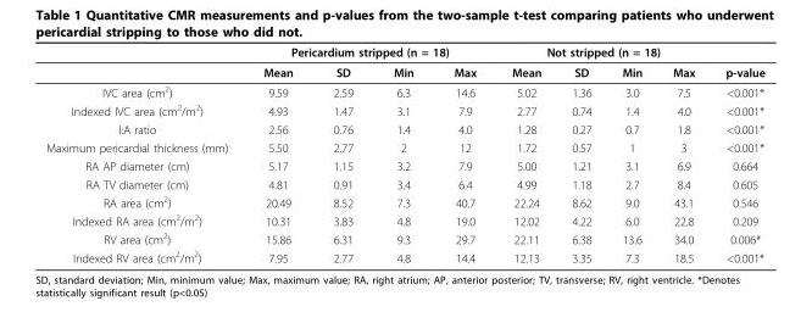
<table><thead><tr><td rowspan="2"></td><td colspan="4">Pericardium stripped (n = 18)</td><td colspan="4">Not stripped (n = 18)</td><td rowspan="2">p-value</td></tr><tr><td>Mean</td><td>SD</td><td>Min</td><td>Max</td><td>Mean</td><td>SD</td><td>Min</td><td>Max</td></tr></thead><tbody><tr><td>IVC area (cm<sup>2</sup>)</td><td>9.59</td><td>2.59</td><td>6.3</td><td>14.6</td><td>5.02</td><td>1.36</td><td>3.0</td><td>7.5</td><td>&lt;0.001*</td></tr><tr><td>Indexed IVC area (cm<sup>2</sup>/m<sup>2</sup>)</td><td>4.93</td><td>1.47</td><td>3.1</td><td>7.9</td><td>2.77</td><td>0.74</td><td>1.4</td><td>4.0</td><td>&lt;0.001*</td></tr><tr><td>I:A ratio</td><td>2.56</td><td>0.76</td><td>1.4</td><td>4.0</td><td>1.28</td><td>0.27</td><td>0.7</td><td>1.8</td><td>&lt;0.001*</td></tr><tr><td>Maximum pericardial thickness (mm)</td><td>5.50</td><td>2.77</td><td>2</td><td>12</td><td>1.72</td><td>0.57</td><td>1</td><td>3</td><td>&lt;0.001*</td></tr><tr><td>RA AP diameter (cm)</td><td>5.17</td><td>1.15</td><td>3.2</td><td>7.9</td><td>5.00</td><td>1.21</td><td>3.1</td><td>6.9</td><td>0.664</td></tr><tr><td>RA TV diameter (cm)</td><td>4.81</td><td>0.91</td><td>3.4</td><td>6.4</td><td>4.99</td><td>1.18</td><td>2.7</td><td>8.4</td><td>0.605</td></tr><tr><td>RA area (cm<sup>2</sup>)</td><td>20.49</td><td>8.52</td><td>7.3</td><td>40.7</td><td>22.24</td><td>8.62</td><td>9.0</td><td>43.1</td><td>0.546</td></tr><tr><td>Indexed RA area (cm<sup>2</sup>/m<sup>2</sup>)</td><td>10.31</td><td>3.83</td><td>4.8</td><td>19.0</td><td>12.02</td><td>4.22</td><td>6.0</td><td>22.8</td><td>0.209</td></tr><tr><td>RV area (cm<sup>2</sup>)</td><td>15.86</td><td>6.31</td><td>9.3</td><td>29.7</td><td>22.11</td><td>6.38</td><td>13.6</td><td>34.0</td><td>0.006*</td></tr><tr><td>Indexed RV area (cm<sup>2</sup>/m<sup>2</sup>)</td><td>7.95</td><td>2.77</td><td>4.8</td><td>14.4</td><td>12.13</td><td>3.35</td><td>7.3</td><td>18.5</td><td>&lt;0.001*</td></tr></tbody></table>